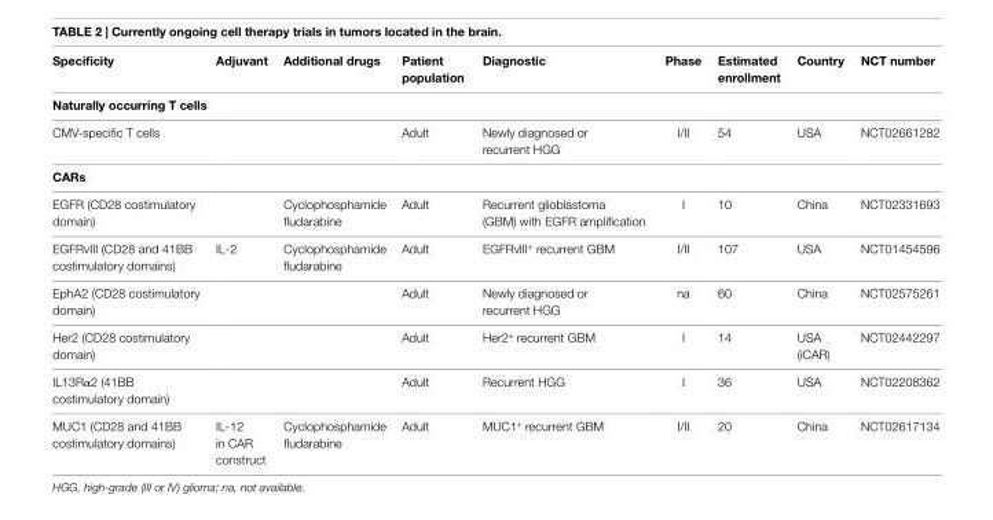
<table><thead><tr><td>Specificity</td><td>Adjuvant</td><td>Additional drugs</td><td>Patient population</td><td>Diagnostic</td><td>Phase</td><td>estimated enrollment</td><td>Country</td><td>NCT number</td></tr></thead><tbody><tr><td colspan="9">Naturally occurring T cells</td></tr><tr><td>CMV-specific T cells</td><td></td><td></td><td>Adult</td><td>Newly diagnosed or recurrent HGG</td><td>I/II</td><td>54</td><td>USA</td><td>NCT02661282</td></tr><tr><td colspan="9">CARs</td></tr><tr><td>EGFR (CD28 costimulatory domain)</td><td></td><td>Cyclophosphamide fludarabine</td><td>Adult</td><td>Recurrent glioblastoma (GBM) with EGFR amplification</td><td>I</td><td>10</td><td>China</td><td>NCT02331693</td></tr><tr><td>EGFRvIII (CD28 and 41BB costimulatory domains)</td><td>IL-2</td><td>Cyclophosphamide fludarabine</td><td>Adult</td><td>EGFRvIII<sup>+</sup> recurrent GBM</td><td>I/II</td><td>107</td><td>USA</td><td>NCT01454596</td></tr><tr><td>EphA2 (CD28 costimulatory domain)</td><td></td><td></td><td>Adult</td><td>Newly diagnosed or recurrent HGG</td><td>na</td><td>60</td><td>China</td><td>NCT02575261</td></tr><tr><td>Her2 (CD28 costimulatory domain)</td><td></td><td></td><td>Adult</td><td>Her2<sup>+</sup> recurrent GBM</td><td>I</td><td>14</td><td>USA (iCAR)</td><td>NCT02442297</td></tr><tr><td>IL13Rα2 (41BB costimulatory domain)</td><td></td><td></td><td>Adult</td><td>Recurrent HGG</td><td>I</td><td>36</td><td>USA</td><td>NCT02208362</td></tr><tr><td>MUC1 (CD28 and 41BB costimulatory domains)</td><td>IL-12 in CAR construct</td><td>Cyclophosphamide fludarabine</td><td>Adult</td><td>MUC1<sup>+</sup> recurrent GBM</td><td>I/II</td><td>20</td><td>China</td><td>NCT02617134</td></tr></tbody></table>